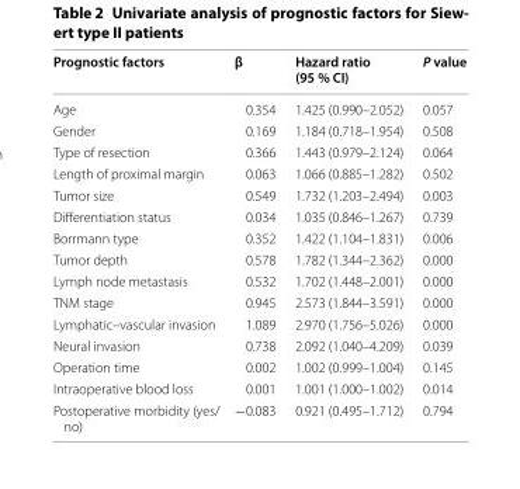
<table><thead><tr><td>Prognostic factors</td><td>β</td><td>Hazard ratio (95 % CI)</td><td>P value</td></tr></thead><tbody><tr><td>Age</td><td>0.354</td><td>1.425 (0.990–2.052)</td><td>0.057</td></tr><tr><td>Gender</td><td>0.169</td><td>1.184 (0.718–1.954)</td><td>0.508</td></tr><tr><td>Type of resection</td><td>0.366</td><td>1.443 (0.979–2.124)</td><td>0.064</td></tr><tr><td>Length of proximal margin</td><td>0.063</td><td>1.066 (0.885–1.282)</td><td>0.502</td></tr><tr><td>Tumor size</td><td>0.549</td><td>1.732 (1.203–2.494)</td><td>0.003</td></tr><tr><td>Differentiation status</td><td>0.034</td><td>1.035 (0.846–1.267)</td><td>0.739</td></tr><tr><td>Borrmann type</td><td>0.352</td><td>1.422 (1.104–1.831)</td><td>0.006</td></tr><tr><td>Tumor depth</td><td>0.578</td><td>1.782 (1.344–2.362)</td><td>0.000</td></tr><tr><td>Lymph node metastasis</td><td>0.532</td><td>1.702 (1.448–2.001)</td><td>0.000</td></tr><tr><td>TNM stage</td><td>0.945</td><td>2.573 (1.844–3.591)</td><td>0.000</td></tr><tr><td>Lymphatic–vascular invasion</td><td>1.089</td><td>2.970 (1.756–5.026)</td><td>0.000</td></tr><tr><td>Neural invasion</td><td>0.738</td><td>2.092 (1.040–4.209)</td><td>0.039</td></tr><tr><td>Operation time</td><td>0.002</td><td>1.002 (0.999–1.004)</td><td>0.145</td></tr><tr><td>Intraoperative blood loss</td><td>0.001</td><td>1.001 (1.000–1.002)</td><td>0.014</td></tr><tr><td>Postoperative morbidity (yes/ no)</td><td>−0.083</td><td>0.921 (0.495–1.712)</td><td>0.794</td></tr></tbody></table>